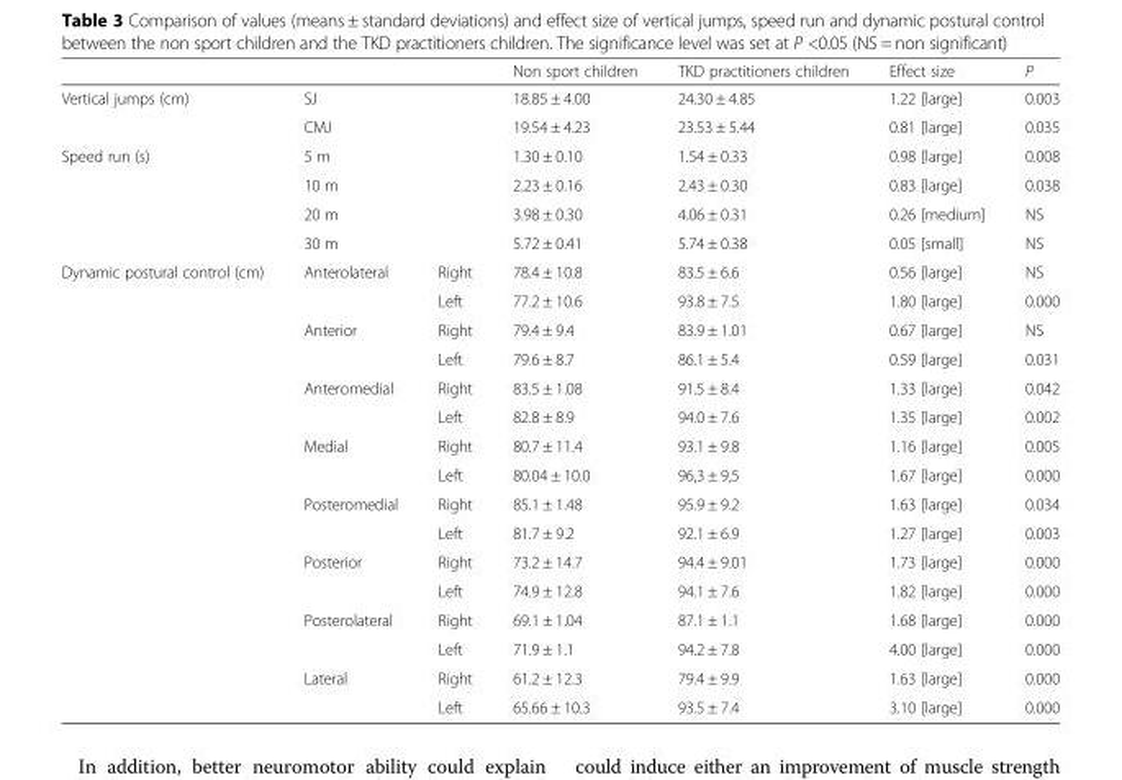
<table><thead><tr><td></td><td></td><td></td><td>Non sport children</td><td>TKD practitioners children</td><td>Effect size</td><td>P</td></tr></thead><tbody><tr><td rowspan="2">Vertical jumps (cm)</td><td colspan="2">SJ</td><td>18.85 ± 4.00</td><td>24.30 ± 4.85</td><td>1.22 [large]</td><td>0.003</td></tr><tr><td colspan="2">CMJ</td><td>19.54 ± 4.23</td><td>23.53 ± 5.44</td><td>0.81 [large]</td><td>0.035</td></tr><tr><td rowspan="4">Speed run (s)</td><td colspan="2">5 m</td><td>1.30 ± 0.10</td><td>1.54 ± 0.33</td><td>0.98 [large]</td><td>0.008</td></tr><tr><td colspan="2">10 m</td><td>2.23 ± 0.16</td><td>2.43 ± 0.30</td><td>0.83 [large]</td><td>0.038</td></tr><tr><td colspan="2">20 m</td><td>3.98 ± 0.30</td><td>4.06 ± 0.31</td><td>0.26 [medium]</td><td>NS</td></tr><tr><td colspan="2">30 m</td><td>5.72 ± 0.41</td><td>5.74 ± 0.38</td><td>0.05 [small]</td><td>NS</td></tr><tr><td rowspan="16">Dynamic postural control (cm)</td><td rowspan="2">Anterolateral</td><td>Right</td><td>78.4 ± 10.8</td><td>83.5 ± 6.6</td><td>0.56 [large]</td><td>NS</td></tr><tr><td>Left</td><td>77.2 ± 10.6</td><td>93.8 ± 7.5</td><td>1.80 [large]</td><td>0.000</td></tr><tr><td rowspan="2">Anterior</td><td>Right</td><td>79.4 ± 9.4</td><td>83.9 ± 1.01</td><td>0.67 [large]</td><td>NS</td></tr><tr><td>Left</td><td>79.6 ± 8.7</td><td>86.1 ± 5.4</td><td>0.59 [large]</td><td>0.031</td></tr><tr><td rowspan="2">Anteromedial</td><td>Right</td><td>83.5 ± 1.08</td><td>91.5 ± 8.4</td><td>1.33 [large]</td><td>0.042</td></tr><tr><td>Left</td><td>82.8 ± 8.9</td><td>94.0 ± 7.6</td><td>1.35 [large]</td><td>0.002</td></tr><tr><td rowspan="2">Medial</td><td>Right</td><td>80.7 ± 11.4</td><td>93.1 ± 9.8</td><td>1.16 [large]</td><td>0.005</td></tr><tr><td>Left</td><td>80.04 ± 10.0</td><td>96,3 ± 9,5</td><td>1.67 [large]</td><td>0.000</td></tr><tr><td rowspan="2">Posteromedial</td><td>Right</td><td>85.1 ± 1.48</td><td>95.9 ± 9.2</td><td>1.63 [large]</td><td>0.034</td></tr><tr><td>Left</td><td>81.7 ± 9.2</td><td>92.1 ± 6.9</td><td>1.27 [large]</td><td>0.003</td></tr><tr><td rowspan="2">Posterior</td><td>Right</td><td>73.2 ± 14.7</td><td>94.4 ± 9.01</td><td>1.73 [large]</td><td>0.000</td></tr><tr><td>Left</td><td>74.9 ± 12.8</td><td>94.1 ± 7.6</td><td>1.82 [large]</td><td>0.000</td></tr><tr><td rowspan="2">Posterolateral</td><td>Right</td><td>69.1 ± 1.04</td><td>87.1 ± 1.1</td><td>1.68 [large]</td><td>0.000</td></tr><tr><td>Left</td><td>71.9 ± 1.1</td><td>94.2 ± 7.8</td><td>4.00 [large]</td><td>0.000</td></tr><tr><td rowspan="2">Lateral</td><td>Right</td><td>61.2 ± 12.3</td><td>79.4 ± 9.9</td><td>1.63 [large]</td><td>0.000</td></tr><tr><td>Left</td><td>65.66 ± 10.3</td><td>93.5 ± 7.4</td><td>3.10 [large]</td><td>0.000</td></tr></tbody></table>